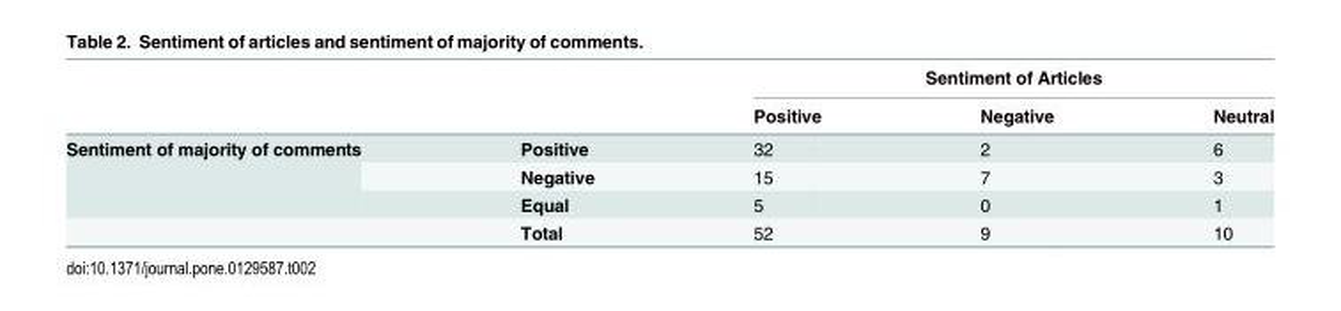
<table><thead><tr><td rowspan="2"></td><td rowspan="2"></td><td colspan="3">Sentiment of Articles</td></tr><tr><td>Positive</td><td>Negative</td><td>Neutral</td></tr></thead><tbody><tr><td rowspan="4">Sentiment of majority of comments</td><td>Positive</td><td>32</td><td>2</td><td>6</td></tr><tr><td>Negative</td><td>15</td><td>7</td><td>3</td></tr><tr><td>Equal</td><td>5</td><td>0</td><td>1</td></tr><tr><td>Total</td><td>52</td><td>9</td><td>10</td></tr></tbody></table>